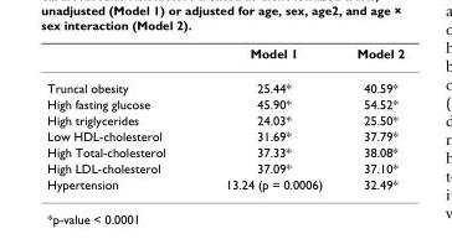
<table><thead><tr><td></td><td>Model 1</td><td>Model 2</td></tr></thead><tbody><tr><td>Truncal obesity</td><td>25.44*</td><td>40.59*</td></tr><tr><td>High fasting glucose</td><td>45.90*</td><td>54.52*</td></tr><tr><td>High triglycerides</td><td>24.03*</td><td>25.50*</td></tr><tr><td>Low HDL-cholesterol</td><td>31.69*</td><td>37.79*</td></tr><tr><td>High Total-cholesterol</td><td>37.33*</td><td>38.08*</td></tr><tr><td>High LDL-cholesterol</td><td>37.09*</td><td>37.10*</td></tr><tr><td>Hypertension</td><td>13.24 (p = 0.0006)</td><td>32.49*</td></tr></tbody></table>